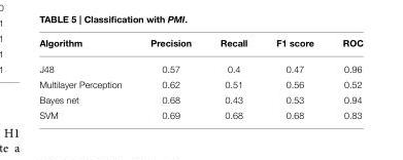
<table><thead><tr><td>Algorithm</td><td>Precision</td><td>Recall</td><td>F1 score</td><td>ROC</td></tr></thead><tbody><tr><td>J48</td><td>0.57</td><td>0.4</td><td>0.47</td><td>0.96</td></tr><tr><td>Multilayer Perception</td><td>0.62</td><td>0.51</td><td>0.56</td><td>0.52</td></tr><tr><td>Bayes net</td><td>0.68</td><td>0.43</td><td>0.53</td><td>0.94</td></tr><tr><td>SVM</td><td>0.69</td><td>0.68</td><td>0.68</td><td>0.83</td></tr></tbody></table>